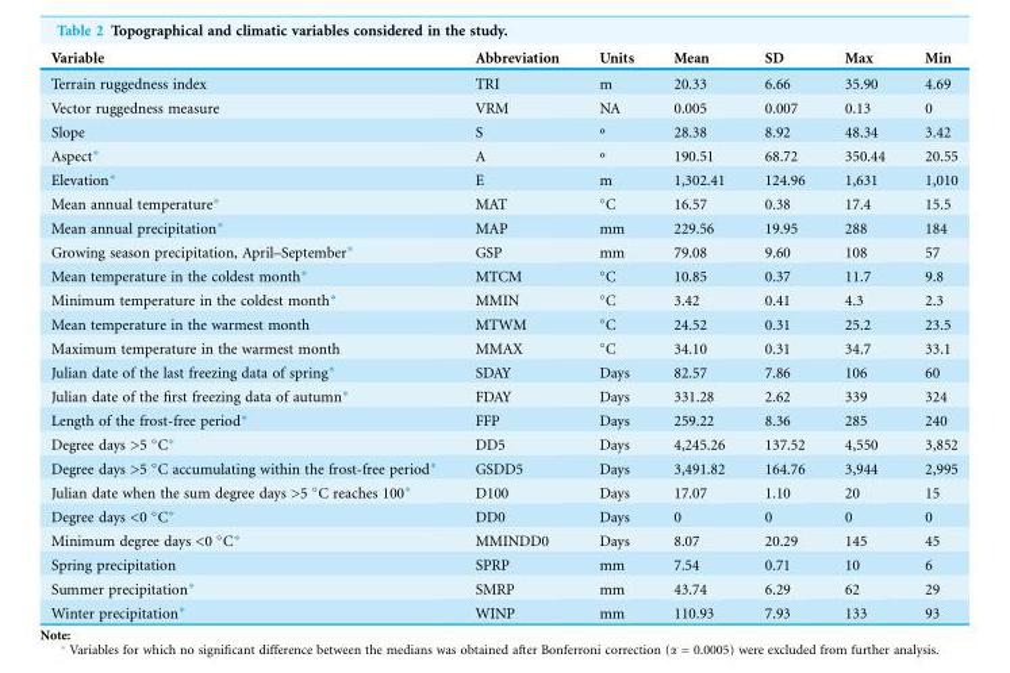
<table><thead><tr><td>Variable</td><td>Abbreviation</td><td>Units</td><td>Mean</td><td>SD</td><td>Max</td><td>Min</td></tr></thead><tbody><tr><td>Terrain ruggedness index</td><td>TRI</td><td>m</td><td>20.33</td><td>6.66</td><td>35.90</td><td>4.69</td></tr><tr><td>Vector ruggedness measure</td><td>VRM</td><td>NA</td><td>0.005</td><td>0.007</td><td>0.13</td><td>0</td></tr><tr><td>Slope</td><td>S</td><td>º</td><td>28.38</td><td>8.92</td><td>48.34</td><td>3.42</td></tr><tr><td>Aspect*</td><td>A</td><td>º</td><td>190.51</td><td>68.72</td><td>350.44</td><td>20.55</td></tr><tr><td>Elevation*</td><td>E</td><td>m</td><td>1,302.41</td><td>124.96</td><td>1,631</td><td>1,010</td></tr><tr><td>Mean annual temperature*</td><td>MAT</td><td>°C</td><td>16.57</td><td>0.38</td><td>17.4</td><td>15.5</td></tr><tr><td>Mean annual precipitation*</td><td>MAP</td><td>mm</td><td>229.56</td><td>19.95</td><td>288</td><td>184</td></tr><tr><td>Growing season precipitation, April–September*</td><td>GSP</td><td>mm</td><td>79.08</td><td>9.60</td><td>108</td><td>57</td></tr><tr><td>Mean temperature in the coldest month*</td><td>MTCM</td><td>°C</td><td>10.85</td><td>0.37</td><td>11.7</td><td>9.8</td></tr><tr><td>Minimum temperature in the coldest month*</td><td>MMIN</td><td>°C</td><td>3.42</td><td>0.41</td><td>4.3</td><td>2.3</td></tr><tr><td>Mean temperature in the warmest month</td><td>MTWM</td><td>°C</td><td>24.52</td><td>0.31</td><td>25.2</td><td>23.5</td></tr><tr><td>Maximum temperature in the warmest month</td><td>MMAX</td><td>°C</td><td>34.10</td><td>0.31</td><td>34.7</td><td>33.1</td></tr><tr><td>Julian date of the last freezing data of spring*</td><td>SDAY</td><td>Days</td><td>82.57</td><td>7.86</td><td>106</td><td>60</td></tr><tr><td>Julian date of the first freezing data of autumn*</td><td>FDAY</td><td>Days</td><td>331.28</td><td>2.62</td><td>339</td><td>324</td></tr><tr><td>Length of the frost-free period*</td><td>FFP</td><td>Days</td><td>259.22</td><td>8.36</td><td>285</td><td>240</td></tr><tr><td>Degree days &gt;5 �C*</td><td>DD5</td><td>Days</td><td>4,245.26</td><td>137.52</td><td>4,550</td><td>3,852</td></tr><tr><td>Degree days &gt;5 �C accumulating within the frost-free period*</td><td>GSDD5</td><td>Days</td><td>3,491.82</td><td>164.76</td><td>3,944</td><td>2,995</td></tr><tr><td>Julian date when the sum degree days &gt;5 �C reaches 100*</td><td>D100</td><td>Days</td><td>17.07</td><td>1.10</td><td>20</td><td>15</td></tr><tr><td>Degree days &lt;0 �C*</td><td>DD0</td><td>Days</td><td>0</td><td>0</td><td>0</td><td>0</td></tr><tr><td>Minimum degree days &lt;0 �C*</td><td>MMINDD0</td><td>Days</td><td>8.07</td><td>20.29</td><td>145</td><td>45</td></tr><tr><td>Spring precipitation</td><td>SPRP</td><td>mm</td><td>7.54</td><td>0.71</td><td>10</td><td>6</td></tr><tr><td>Summer precipitation*</td><td>SMRP</td><td>mm</td><td>43.74</td><td>6.29</td><td>62</td><td>29</td></tr><tr><td>Winter precipitation*</td><td>WINP</td><td>mm</td><td>110.93</td><td>7.93</td><td>133</td><td>93</td></tr></tbody></table>